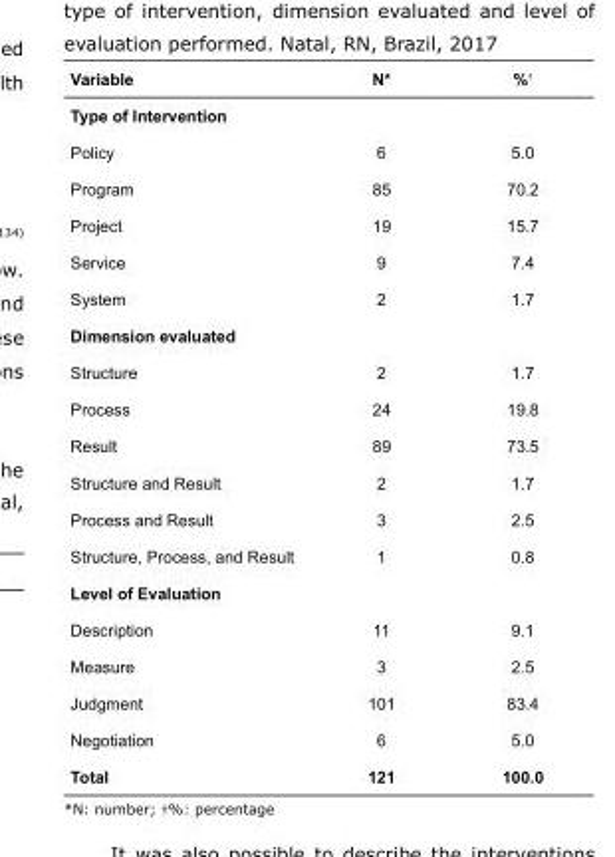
<table><tbody><tr><td>Variable</td><td>N*</td><td>%<sup>†</sup></td></tr><tr><td colspan="3">Type of Intervention</td></tr><tr><td>Policy</td><td>6</td><td>5.0</td></tr><tr><td>Program</td><td>85</td><td>70.2</td></tr><tr><td>Project</td><td>19</td><td>15.7</td></tr><tr><td>Service</td><td>9</td><td>7.4</td></tr><tr><td>System</td><td>2</td><td>1.7</td></tr><tr><td colspan="3">Dimension evaluated</td></tr><tr><td>Structure</td><td>2</td><td>1.7</td></tr><tr><td>Process</td><td>24</td><td>19.8</td></tr><tr><td>Result</td><td>89</td><td>73.5</td></tr><tr><td>Structure and Result</td><td>2</td><td>1.7</td></tr><tr><td>Process and Result</td><td>3</td><td>2.5</td></tr><tr><td>Structure, Process, and Result</td><td>1</td><td>0.8</td></tr><tr><td colspan="3">Level of Evaluation</td></tr><tr><td>Description</td><td>11</td><td>9.1</td></tr><tr><td>Measure</td><td>3</td><td>2.5</td></tr><tr><td>Judgment</td><td>101</td><td>83.4</td></tr><tr><td>Negotiation</td><td>6</td><td>5.0</td></tr><tr><td>Total</td><td>121</td><td>100.0</td></tr></tbody></table>